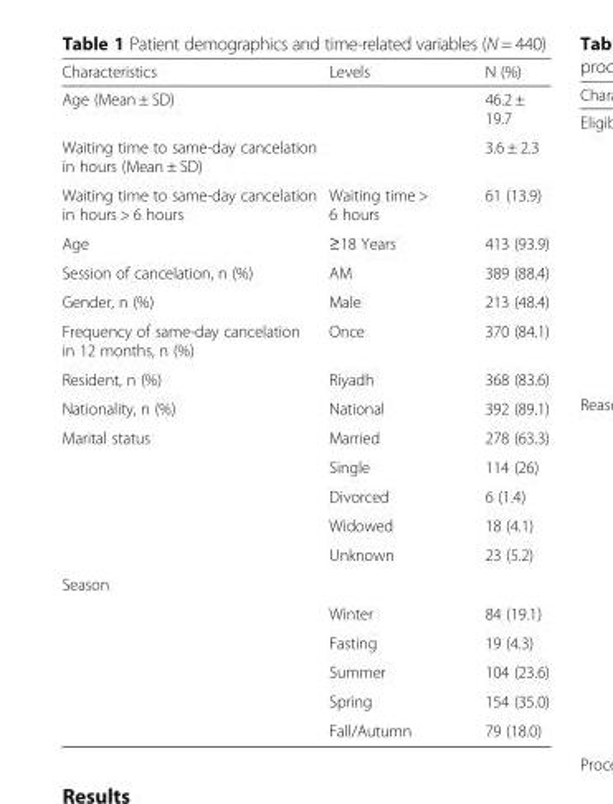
<table><thead><tr><td>Characteristics</td><td>Levels</td><td>N (%)</td></tr></thead><tbody><tr><td>Age (Mean ± SD)</td><td></td><td>46.2 ± 19.7</td></tr><tr><td>Waiting time to same-day cancelation in hours (Mean ± SD)</td><td></td><td>3.6 ± 2.3</td></tr><tr><td>Waiting time to same-day cancelation in hours &gt; 6 hours</td><td>Waiting time &gt; 6 hours</td><td>61 (13.9)</td></tr><tr><td>Age</td><td>≥18 Years</td><td>413 (93.9)</td></tr><tr><td>Session of cancelation, n (%)</td><td>AM</td><td>389 (88.4)</td></tr><tr><td>Gender, n (%)</td><td>Male</td><td>213 (48.4)</td></tr><tr><td>Frequency of same-day cancelation in 12 months, n (%)</td><td>Once</td><td>370 (84.1)</td></tr><tr><td>Resident, n (%)</td><td>Riyadh</td><td>368 (83.6)</td></tr><tr><td>Nationality, n (%)</td><td>National</td><td>392 (89.1)</td></tr><tr><td rowspan="5">Marital status</td><td>Married</td><td>278 (63.3)</td></tr><tr><td>Single</td><td>114 (26)</td></tr><tr><td>Divorced</td><td>6 (1.4)</td></tr><tr><td>Widowed</td><td>18 (4.1)</td></tr><tr><td>Unknown</td><td>23 (5.2)</td></tr><tr><td colspan="3">Season</td></tr><tr><td></td><td>Winter</td><td>84 (19.1)</td></tr><tr><td></td><td>Fasting</td><td>19 (4.3)</td></tr><tr><td></td><td>Summer</td><td>104 (23.6)</td></tr><tr><td></td><td>Spring</td><td>154 (35.0)</td></tr><tr><td></td><td>Fall/Autumn</td><td>79 (18.0)</td></tr></tbody></table>